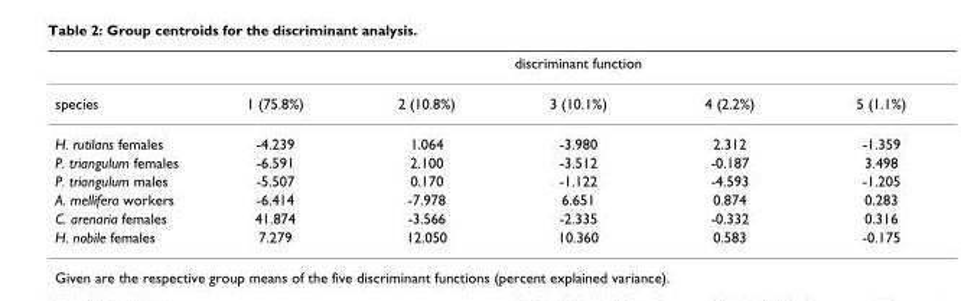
<table><thead><tr><td rowspan="2">species</td><td colspan="5">discriminant function</td></tr><tr><td>1 (75.8%)</td><td>2 (10.8%)</td><td>3 (10.1%)</td><td>4 (2.2%)</td><td>5 (1.1%)</td></tr></thead><tbody><tr><td>H. rutilans females</td><td>-4.239</td><td>1.064</td><td>-3.980</td><td>2.312</td><td>-1.359</td></tr><tr><td>P. triangulum females</td><td>-6.591</td><td>2.100</td><td>-3.512</td><td>-0.187</td><td>3.498</td></tr><tr><td>P. triangulum males</td><td>-5.507</td><td>0.170</td><td>-1.122</td><td>-4.593</td><td>-1.205</td></tr><tr><td>A. mellifera workers</td><td>-6.414</td><td>-7.978</td><td>6.651</td><td>0.874</td><td>0.283</td></tr><tr><td>C. arenaria females</td><td>41.874</td><td>-3.566</td><td>-2.335</td><td>-0.332</td><td>0.316</td></tr><tr><td>H. nobile females</td><td>7.279</td><td>12.050</td><td>10.360</td><td>0.583</td><td>-0.175</td></tr></tbody></table>